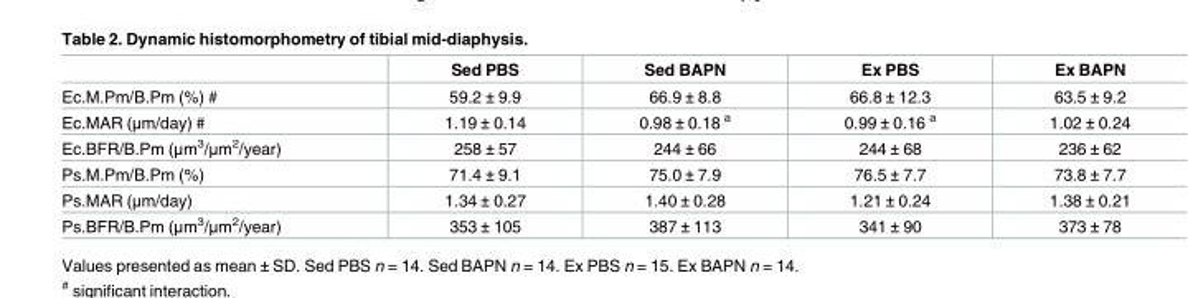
<table><thead><tr><td></td><td>Sed PBS</td><td>Sed BAPN</td><td>Ex PBS</td><td>Ex BAPN</td></tr></thead><tbody><tr><td>Ec.M.Pm/B.Pm (%) #</td><td>59.2 ± 9.9</td><td>66.9 ± 8.8</td><td>66.8 ± 12.3</td><td>63.5 ± 9.2</td></tr><tr><td>Ec.MAR (μm/day) #</td><td>1.19 ± 0.14</td><td>0.98 ± 0.18 <sup>a</sup></td><td>0.99 ± 0.16 <sup>a</sup></td><td>1.02 ± 0.24</td></tr><tr><td>Ec.BFR/B.Pm (μm<sup>3</sup>/μm<sup>2</sup>/year)</td><td>258 ± 57</td><td>244 ± 66</td><td>244 ± 68</td><td>236 ± 62</td></tr><tr><td>Ps.M.Pm/B.Pm (%)</td><td>71.4 ± 9.1</td><td>75.0 ± 7.9</td><td>76.5 ± 7.7</td><td>73.8 ± 7.7</td></tr><tr><td>Ps.MAR (μm/day)</td><td>1.34 ± 0.27</td><td>1.40 ± 0.28</td><td>1.21 ± 0.24</td><td>1.38 ± 0.21</td></tr><tr><td>Ps.BFR/B.Pm (μm<sup>3</sup>/μm<sup>2</sup>/year)</td><td>353 ± 105</td><td>387 ± 113</td><td>341 ± 90</td><td>373 ± 78</td></tr></tbody></table>